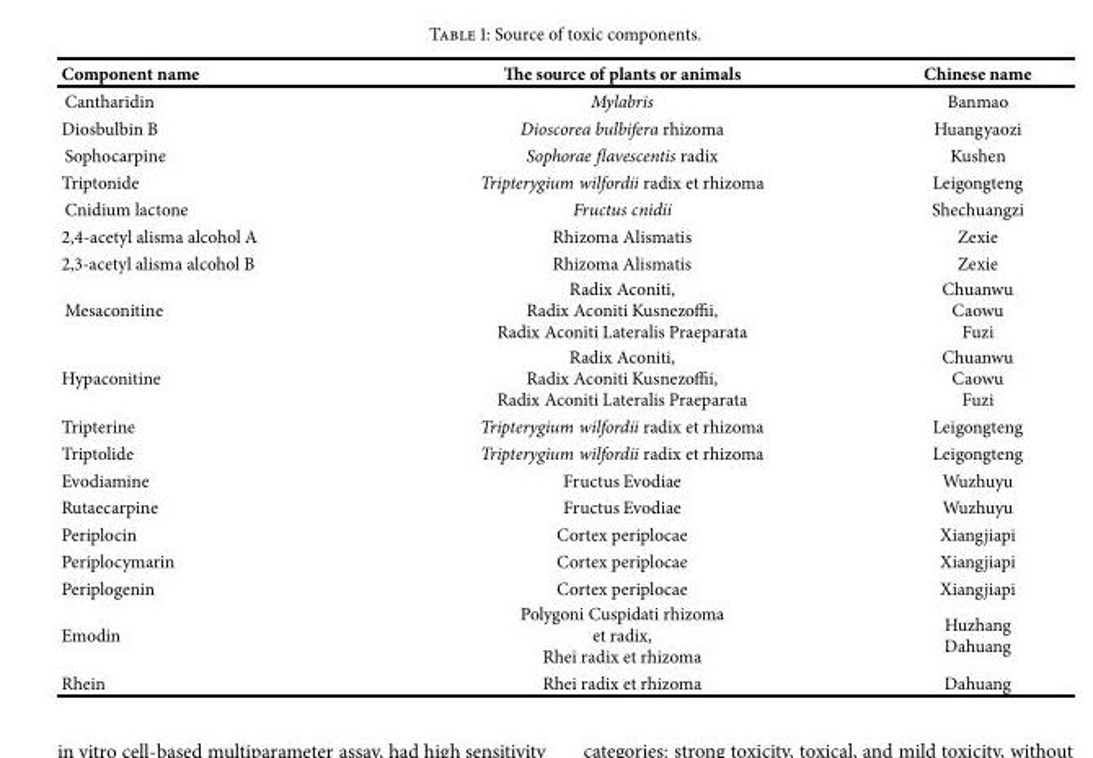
<table><thead><tr><td>Component name</td><td>The source of plants or animals</td><td>Chinese name</td></tr></thead><tbody><tr><td>Cantharidin</td><td>Mylabris</td><td>Banmao</td></tr><tr><td>Diosbulbin B</td><td>Dioscorea bulbifera rhizoma</td><td>Huangyaozi</td></tr><tr><td>Sophocarpine</td><td>Sophorae flavescentis radix</td><td>Kushen</td></tr><tr><td>Triptonide</td><td>Tripterygium wilfordii radix et rhizoma</td><td>Leigongteng</td></tr><tr><td>Cnidium lactone</td><td>Fructus cnidii</td><td>Shechuangzi</td></tr><tr><td>2,4-acetyl alisma alcohol A</td><td>Rhizoma Alismatis</td><td>Zexie</td></tr><tr><td>2,3-acetyl alisma alcohol B</td><td>Rhizoma Alismatis</td><td>Zexie</td></tr><tr><td>Mesaconitine</td><td>Radix Aconiti, Radix Aconiti Kusnezoffii, Radix Aconiti Lateralis Praeparata</td><td>Chuanwu Caowu Fuzi</td></tr><tr><td>Hypaconitine</td><td>Radix Aconiti, Radix Aconiti Kusnezoffii, Radix Aconiti Lateralis Praeparata</td><td>Chuanwu Caowu Fuzi</td></tr><tr><td>Tripterine</td><td>Tripterygium wilfordii radix et rhizoma</td><td>Leigongteng</td></tr><tr><td>Triptolide</td><td>Tripterygium wilfordii radix et rhizoma</td><td>Leigongteng</td></tr><tr><td>Evodiamine</td><td>Fructus Evodiae</td><td>Wuzhuyu</td></tr><tr><td>Rutaecarpine</td><td>Fructus Evodiae</td><td>Wuzhuyu</td></tr><tr><td>Periplocin</td><td>Cortex periplocae</td><td>Xiangjiapi</td></tr><tr><td>Periplocymarin</td><td>Cortex periplocae</td><td>Xiangjiapi</td></tr><tr><td>Periplogenin</td><td>Cortex periplocae</td><td>Xiangjiapi</td></tr><tr><td>Emodin</td><td>Polygoni Cuspidati rhizoma et radix, Rhei radix et rhizoma</td><td>Huzhang Dahuang</td></tr><tr><td>Rhein</td><td>Rhei radix et rhizoma</td><td>Dahuang</td></tr></tbody></table>